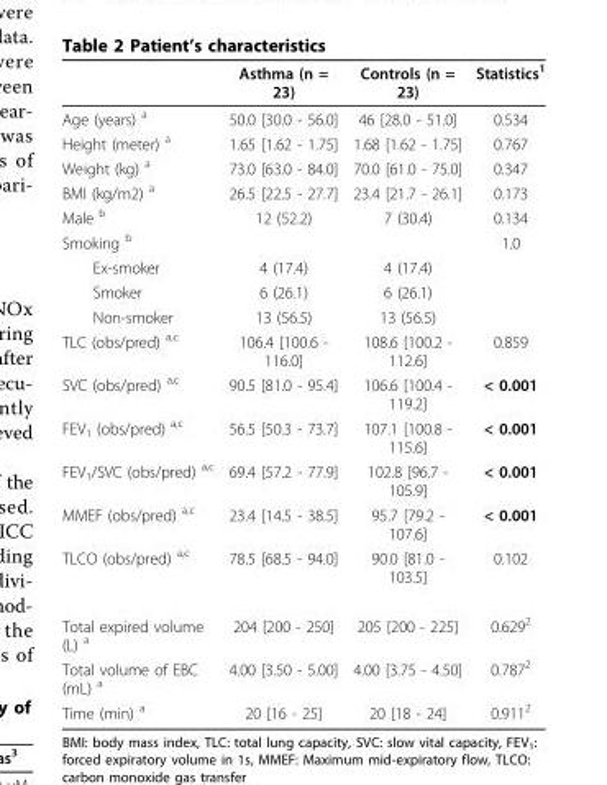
<table><thead><tr><td></td><td>Asthma (n = 23)</td><td>Controls (n = 23)</td><td>Statistics<sup>1</sup></td></tr></thead><tbody><tr><td>Age (years) <sup>a</sup></td><td>50.0 [30.0 - 56.0]</td><td>46 [28.0 - 51.0]</td><td>0.534</td></tr><tr><td>Height (meter) <sup>a</sup></td><td>1.65 [1.62 - 1.75]</td><td>1.68 [1.62 - 1.75]</td><td>0.767</td></tr><tr><td>Weight (kg) <sup>a</sup></td><td>73.0 [63.0 - 84.0]</td><td>70.0 [61.0 - 75.0]</td><td>0.347</td></tr><tr><td>BMI (kg/m2) <sup>a</sup></td><td>26.5 [22.5 - 27.7]</td><td>23.4 [21.7 - 26.1]</td><td>0.173</td></tr><tr><td>Male <sup>b</sup></td><td>12 (52.2)</td><td>7 (30.4)</td><td>0.134</td></tr><tr><td>Smoking <sup>b</sup></td><td></td><td></td><td>1.0</td></tr><tr><td>Ex-smoker</td><td>4 (17.4)</td><td>4 (17.4)</td><td></td></tr><tr><td>Smoker</td><td>6 (26.1)</td><td>6 (26.1)</td><td></td></tr><tr><td>Non-smoker</td><td>13 (56.5)</td><td>13 (56.5)</td><td></td></tr><tr><td>TLC (obs/pred) <sup>a,c</sup></td><td>106.4 [100.6 - 116.0]</td><td>108.6 [100.2 - 112.6]</td><td>0.859</td></tr><tr><td>SVC (obs/pred) <sup>a,c</sup></td><td>90.5 [81.0 - 95.4]</td><td>106.6 [100.4 - 119.2]</td><td>&lt; 0.001</td></tr><tr><td>FEV<sub>1</sub> (obs/pred) <sup>a,c</sup></td><td>56.5 [50.3 - 73.7]</td><td>107.1 [100.8 - 115.6]</td><td>&lt; 0.001</td></tr><tr><td>FEV<sub>1</sub>/SVC (obs/pred) <sup>a,c</sup></td><td>69.4 [57.2 - 77.9]</td><td>102.8 [96.7 - 105.9]</td><td>&lt; 0.001</td></tr><tr><td>MMEF (obs/pred) <sup>a,c</sup></td><td>23.4 [14.5 - 38.5]</td><td>95.7 [79.2 - 107.6]</td><td>&lt; 0.001</td></tr><tr><td>TLCO (obs/pred) <sup>a,c</sup></td><td>78.5 [68.5 - 94.0]</td><td>90.0 [81.0 - 103.5]</td><td>0.102</td></tr><tr><td>Total expired volume (L) <sup>a</sup></td><td>204 [200 - 250]</td><td>205 [200 - 225]</td><td>0.629<sup>2</sup></td></tr><tr><td>Total volume of EBC (mL) <sup>a</sup></td><td>4.00 [3.50 - 5.00]</td><td>4.00 [3.75 - 4.50]</td><td>0.787<sup>2</sup></td></tr><tr><td>Time (min) <sup>a</sup></td><td>20 [16 - 25]</td><td>20 [18 - 24]</td><td>0.911<sup>2</sup></td></tr></tbody></table>